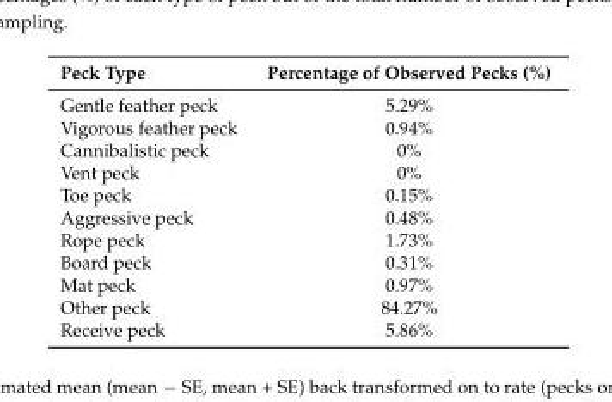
<table><thead><tr><td>Peck Type</td><td>Percentage of Observed Pecks (%)</td></tr></thead><tbody><tr><td>Gentle feather peck</td><td>5.29%</td></tr><tr><td>Vigorous feather peck</td><td>0.94%</td></tr><tr><td>Cannibalistic peck</td><td>0%</td></tr><tr><td>Vent peck</td><td>0%</td></tr><tr><td>Toe peck</td><td>0.15%</td></tr><tr><td>Aggressive peck</td><td>0.48%</td></tr><tr><td>Rope peck</td><td>1.73%</td></tr><tr><td>Board peck</td><td>0.31%</td></tr><tr><td>Mat peck</td><td>0.97%</td></tr><tr><td>Other peck</td><td>84.27%</td></tr><tr><td>Receive peck</td><td>5.86%</td></tr></tbody></table>